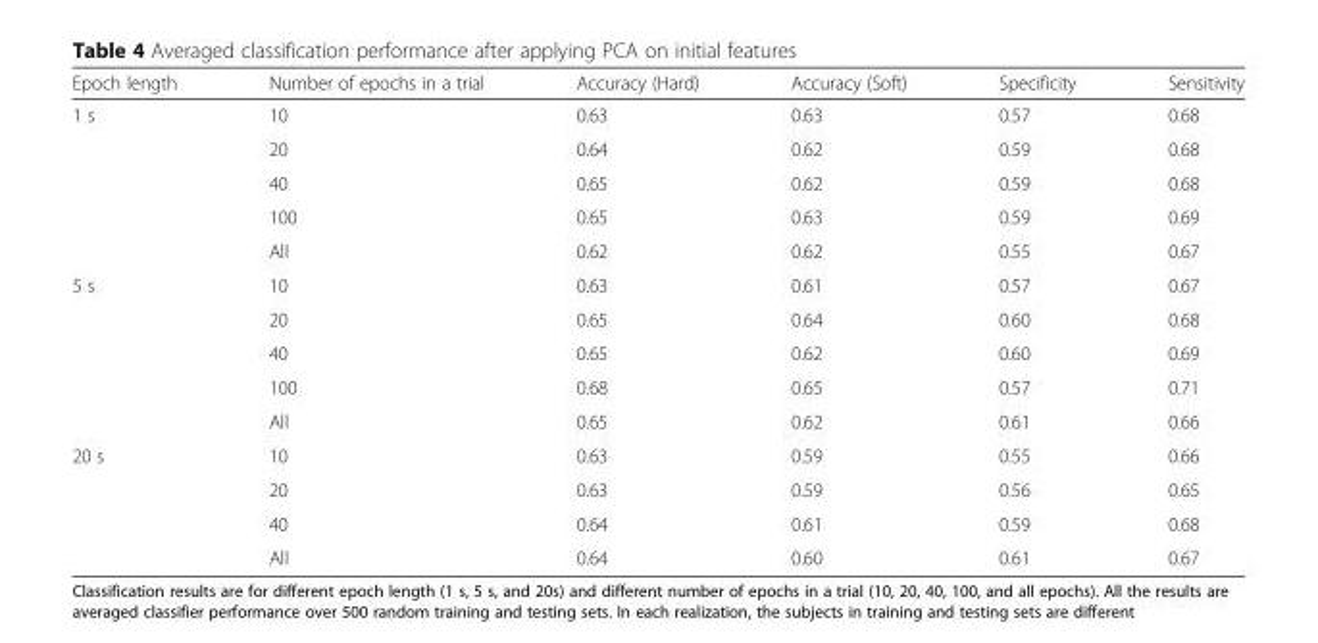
<table><thead><tr><td>Epoch length</td><td>Number of epochs in a trial</td><td>Accuracy (Hard)</td><td>Accuracy (Soft)</td><td>Specificity</td><td>Sensitivity</td></tr></thead><tbody><tr><td rowspan="5">1 s</td><td>10</td><td>0.63</td><td>0.63</td><td>0.57</td><td>0.68</td></tr><tr><td>20</td><td>0.64</td><td>0.62</td><td>0.59</td><td>0.68</td></tr><tr><td>40</td><td>0.65</td><td>0.62</td><td>0.59</td><td>0.68</td></tr><tr><td>100</td><td>0.65</td><td>0.63</td><td>0.59</td><td>0.69</td></tr><tr><td>All</td><td>0.62</td><td>0.62</td><td>0.55</td><td>0.67</td></tr><tr><td rowspan="5">5 s</td><td>10</td><td>0.63</td><td>0.61</td><td>0.57</td><td>0.67</td></tr><tr><td>20</td><td>0.65</td><td>0.64</td><td>0.60</td><td>0.68</td></tr><tr><td>40</td><td>0.65</td><td>0.62</td><td>0.60</td><td>0.69</td></tr><tr><td>100</td><td>0.68</td><td>0.65</td><td>0.57</td><td>0.71</td></tr><tr><td>All</td><td>0.65</td><td>0.62</td><td>0.61</td><td>0.66</td></tr><tr><td rowspan="4">20 s</td><td>10</td><td>0.63</td><td>0.59</td><td>0.55</td><td>0.66</td></tr><tr><td>20</td><td>0.63</td><td>0.59</td><td>0.56</td><td>0.65</td></tr><tr><td>40</td><td>0.64</td><td>0.61</td><td>0.59</td><td>0.68</td></tr><tr><td>All</td><td>0.64</td><td>0.60</td><td>0.61</td><td>0.67</td></tr></tbody></table>